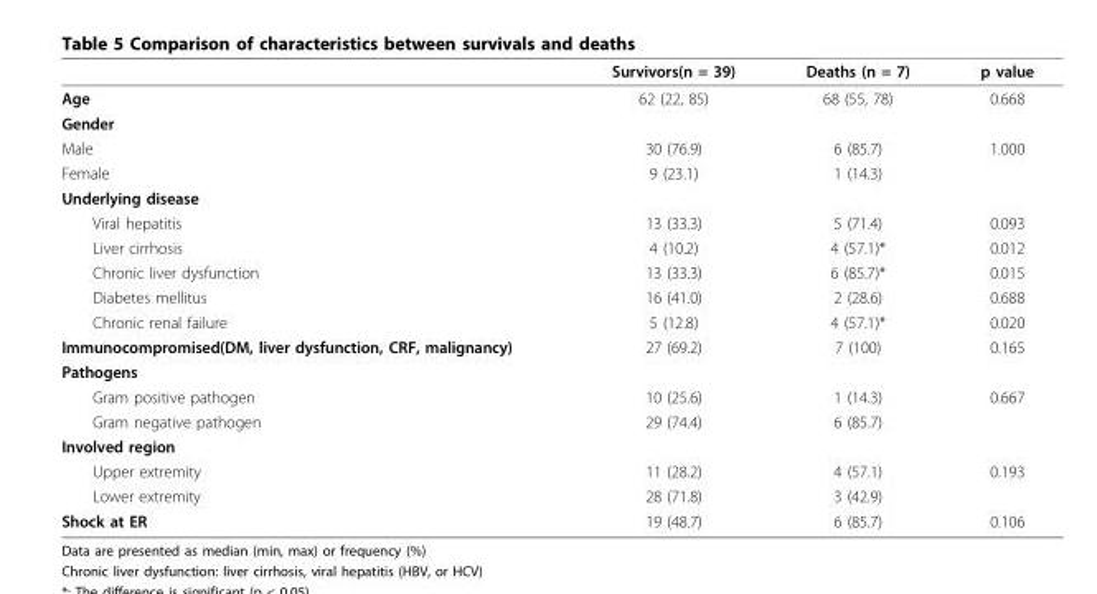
<table><thead><tr><td></td><td>Survivors(n = 39)</td><td>Deaths (n = 7)</td><td>p value</td></tr></thead><tbody><tr><td>Age</td><td>62 (22, 85)</td><td>68 (55, 78)</td><td>0.668</td></tr><tr><td colspan="4">Gender</td></tr><tr><td>Male</td><td>30 (76.9)</td><td>6 (85.7)</td><td>1.000</td></tr><tr><td>Female</td><td>9 (23.1)</td><td>1 (14.3)</td><td></td></tr><tr><td colspan="4">Underlying disease</td></tr><tr><td>Viral hepatitis</td><td>13 (33.3)</td><td>5 (71.4)</td><td>0.093</td></tr><tr><td>Liver cirrhosis</td><td>4 (10.2)</td><td>4 (57.1)*</td><td>0.012</td></tr><tr><td>Chronic liver dysfunction</td><td>13 (33.3)</td><td>6 (85.7)*</td><td>0.015</td></tr><tr><td>Diabetes mellitus</td><td>16 (41.0)</td><td>2 (28.6)</td><td>0.688</td></tr><tr><td>Chronic renal failure</td><td>5 (12.8)</td><td>4 (57.1)*</td><td>0.020</td></tr><tr><td>Immunocompromised(DM, liver dysfunction, CRF, malignancy)</td><td>27 (69.2)</td><td>7 (100)</td><td>0.165</td></tr><tr><td colspan="4">Pathogens</td></tr><tr><td>Gram positive pathogen</td><td>10 (25.6)</td><td>1 (14.3)</td><td>0.667</td></tr><tr><td>Gram negative pathogen</td><td>29 (74.4)</td><td>6 (85.7)</td><td></td></tr><tr><td colspan="4">Involved region</td></tr><tr><td>Upper extremity</td><td>11 (28.2)</td><td>4 (57.1)</td><td>0.193</td></tr><tr><td>Lower extremity</td><td>28 (71.8)</td><td>3 (42.9)</td><td></td></tr><tr><td>Shock at ER</td><td>19 (48.7)</td><td>6 (85.7)</td><td>0.106</td></tr></tbody></table>